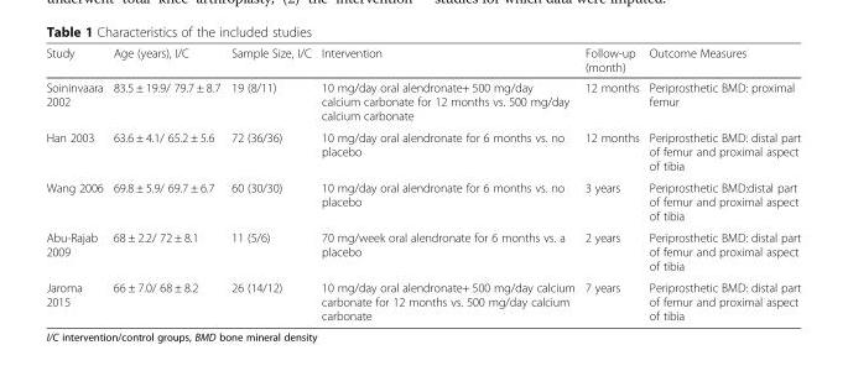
<table><thead><tr><td>Study</td><td>Age (years), I/C</td><td>Sample Size, I/C</td><td>Intervention</td><td>Follow-up (month)</td><td>Outcome Measures</td></tr></thead><tbody><tr><td>Soininvaara 2002</td><td>83.5 ± 19.9/ 79.7 ± 8.7</td><td>19 (8/11)</td><td>10 mg/day oral alendronate+ 500 mg/day calcium carbonate for 12 months vs. 500 mg/day calcium carbonate</td><td>12 months</td><td>Periprosthetic BMD: proximal femur</td></tr><tr><td>Han 2003</td><td>63.6 ± 4.1/ 65.2 ± 5.6</td><td>72 (36/36)</td><td>10 mg/day oral alendronate for 6 months vs. no placebo</td><td>12 months</td><td>Periprosthetic BMD: distal part of femur and proximal aspect of tibia</td></tr><tr><td>Wang 2006</td><td>69.8 ± 5.9/ 69.7 ± 6.7</td><td>60 (30/30)</td><td>10 mg/day oral alendronate for 6 months vs. no placebo</td><td>3 years</td><td>Periprosthetic BMD:distal part of femur and proximal aspect of tibia</td></tr><tr><td>Abu-Rajab 2009</td><td>68 ± 2.2/ 72 ± 8.1</td><td>11 (5/6)</td><td>70 mg/week oral alendronate for 6 months vs. a placebo</td><td>2 years</td><td>Periprosthetic BMD: distal part of femur and proximal aspect of tibia</td></tr><tr><td>Jaroma 2015</td><td>66 ± 7.0/ 68 ± 8.2</td><td>26 (14/12)</td><td>10 mg/day oral alendronate+ 500 mg/day calcium carbonate for 12 months vs. 500 mg/day calcium carbonate</td><td>7 years</td><td>Periprosthetic BMD: distal part of femur and proximal aspect of tibia</td></tr></tbody></table>